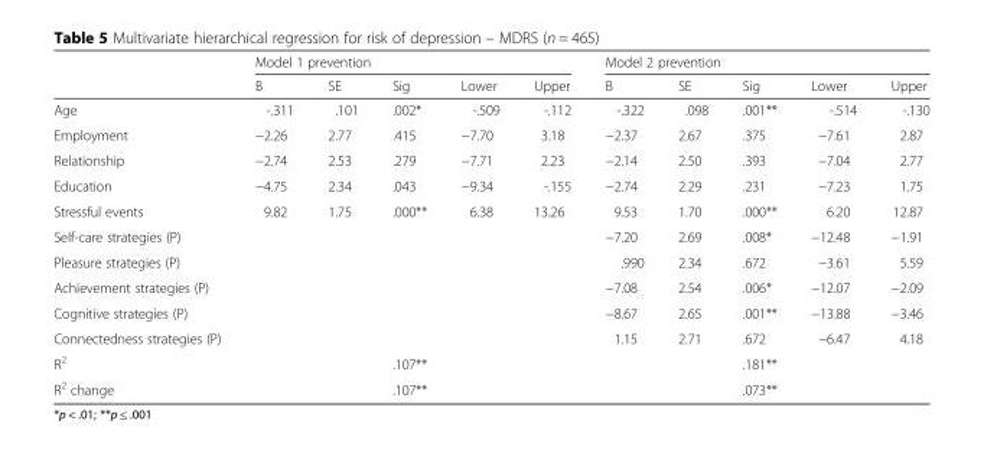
<table><thead><tr><td rowspan="2"></td><td colspan="5">Model 1 prevention</td><td colspan="5">Model 2 prevention</td></tr><tr><td>B</td><td>SE</td><td>Sig</td><td>Lower</td><td>Upper</td><td>B</td><td>SE</td><td>Sig</td><td>Lower</td><td>Upper</td></tr></thead><tbody><tr><td>Age</td><td>-.311</td><td>.101</td><td>.002*</td><td>-.509</td><td>-.112</td><td>-.322</td><td>.098</td><td>.001**</td><td>-.514</td><td>-.130</td></tr><tr><td>Employment</td><td>−2.26</td><td>2.77</td><td>.415</td><td>−7.70</td><td>3.18</td><td>−2.37</td><td>2.67</td><td>.375</td><td>−7.61</td><td>2.87</td></tr><tr><td>Relationship</td><td>−2.74</td><td>2.53</td><td>.279</td><td>−7.71</td><td>2.23</td><td>−2.14</td><td>2.50</td><td>.393</td><td>−7.04</td><td>2.77</td></tr><tr><td>Education</td><td>−4.75</td><td>2.34</td><td>.043</td><td>−9.34</td><td>-.155</td><td>−2.74</td><td>2.29</td><td>.231</td><td>−7.23</td><td>1.75</td></tr><tr><td>Stressful events</td><td>9.82</td><td>1.75</td><td>.000**</td><td>6.38</td><td>13.26</td><td>9.53</td><td>1.70</td><td>.000**</td><td>6.20</td><td>12.87</td></tr><tr><td>Self-care strategies (P)</td><td></td><td></td><td></td><td></td><td></td><td>−7.20</td><td>2.69</td><td>.008*</td><td>−12.48</td><td>−1.91</td></tr><tr><td>Pleasure strategies (P)</td><td></td><td></td><td></td><td></td><td></td><td>.990</td><td>2.34</td><td>.672</td><td>−3.61</td><td>5.59</td></tr><tr><td>Achievement strategies (P)</td><td></td><td></td><td></td><td></td><td></td><td>−7.08</td><td>2.54</td><td>.006*</td><td>−12.07</td><td>−2.09</td></tr><tr><td>Cognitive strategies (P)</td><td></td><td></td><td></td><td></td><td></td><td>−8.67</td><td>2.65</td><td>.001**</td><td>−13.88</td><td>−3.46</td></tr><tr><td>Connectedness strategies (P)</td><td></td><td></td><td></td><td></td><td></td><td>1.15</td><td>2.71</td><td>.672</td><td>−6.47</td><td>4.18</td></tr><tr><td>R<sup>2</sup></td><td></td><td></td><td>.107**</td><td></td><td></td><td></td><td></td><td>.181**</td><td></td><td></td></tr><tr><td>R<sup>2</sup> change</td><td></td><td></td><td>.107**</td><td></td><td></td><td></td><td></td><td>.073**</td><td></td><td></td></tr></tbody></table>